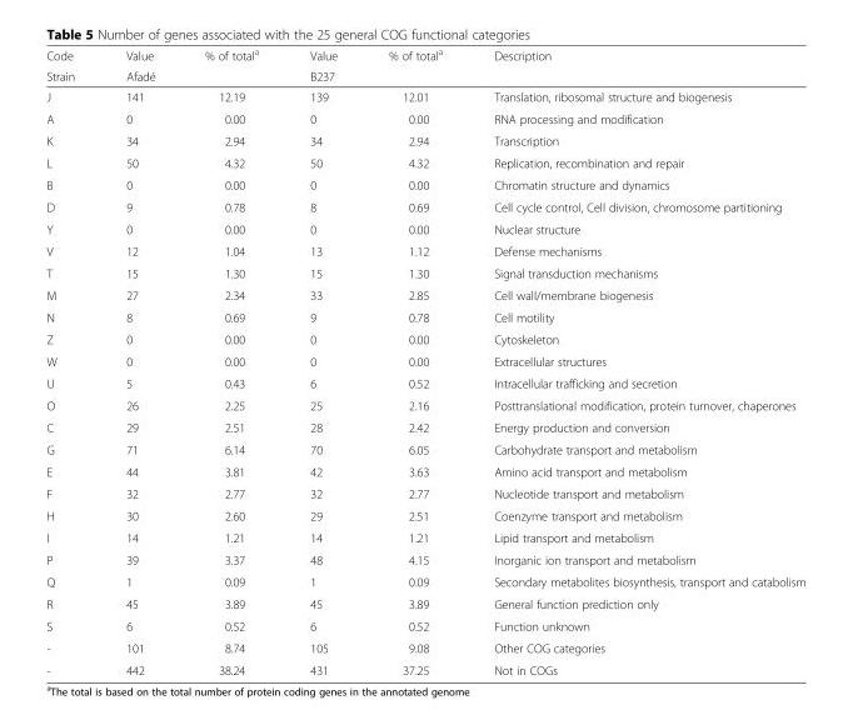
<table><thead><tr><td rowspan="2">Code Strain</td><td>Value</td><td>% of total<sup>a</sup></td><td>Value</td><td>% of total<sup>a</sup></td><td rowspan="2">Description</td></tr><tr><td colspan="2">Afadé</td><td colspan="2">B237</td></tr></thead><tbody><tr><td>J</td><td>141</td><td>12.19</td><td>139</td><td>12.01</td><td>Translation, ribosomal structure and biogenesis</td></tr><tr><td>A</td><td>0</td><td>0.00</td><td>0</td><td>0.00</td><td>RNA processing and modification</td></tr><tr><td>K</td><td>34</td><td>2.94</td><td>34</td><td>2.94</td><td>Transcription</td></tr><tr><td>L</td><td>50</td><td>4.32</td><td>50</td><td>4.32</td><td>Replication, recombination and repair</td></tr><tr><td>B</td><td>0</td><td>0.00</td><td>0</td><td>0.00</td><td>Chromatin structure and dynamics</td></tr><tr><td>D</td><td>9</td><td>0.78</td><td>8</td><td>0.69</td><td>Cell cycle control, Cell division, chromosome partitioning</td></tr><tr><td>Y</td><td>0</td><td>0.00</td><td>0</td><td>0.00</td><td>Nuclear structure</td></tr><tr><td>V</td><td>12</td><td>1.04</td><td>13</td><td>1.12</td><td>Defense mechanisms</td></tr><tr><td>T</td><td>15</td><td>1.30</td><td>15</td><td>1.30</td><td>Signal transduction mechanisms</td></tr><tr><td>M</td><td>27</td><td>2.34</td><td>33</td><td>2.85</td><td>Cell wall/membrane biogenesis</td></tr><tr><td>N</td><td>8</td><td>0.69</td><td>9</td><td>0.78</td><td>Cell motility</td></tr><tr><td>Z</td><td>0</td><td>0.00</td><td>0</td><td>0.00</td><td>Cytoskeleton</td></tr><tr><td>W</td><td>0</td><td>0.00</td><td>0</td><td>0.00</td><td>Extracellular structures</td></tr><tr><td>U</td><td>5</td><td>0.43</td><td>6</td><td>0.52</td><td>Intracellular trafficking and secretion</td></tr><tr><td>O</td><td>26</td><td>2.25</td><td>25</td><td>2.16</td><td>Posttranslational modification, protein turnover, chaperones</td></tr><tr><td>C</td><td>29</td><td>2.51</td><td>28</td><td>2.42</td><td>Energy production and conversion</td></tr><tr><td>G</td><td>71</td><td>6.14</td><td>70</td><td>6.05</td><td>Carbohydrate transport and metabolism</td></tr><tr><td>E</td><td>44</td><td>3.81</td><td>42</td><td>3.63</td><td>Amino acid transport and metabolism</td></tr><tr><td>F</td><td>32</td><td>2.77</td><td>32</td><td>2.77</td><td>Nucleotide transport and metabolism</td></tr><tr><td>H</td><td>30</td><td>2.60</td><td>29</td><td>2.51</td><td>Coenzyme transport and metabolism</td></tr><tr><td>I</td><td>14</td><td>1.21</td><td>14</td><td>1.21</td><td>Lipid transport and metabolism</td></tr><tr><td>P</td><td>39</td><td>3.37</td><td>48</td><td>4.15</td><td>Inorganic ion transport and metabolism</td></tr><tr><td>Q</td><td>1</td><td>0.09</td><td>1</td><td>0.09</td><td>Secondary metabolites biosynthesis, transport and catabolism</td></tr><tr><td>R</td><td>45</td><td>3.89</td><td>45</td><td>3.89</td><td>General function prediction only</td></tr><tr><td>S</td><td>6</td><td>0.52</td><td>6</td><td>0.52</td><td>Function unknown</td></tr><tr><td>-</td><td>101</td><td>8.74</td><td>105</td><td>9.08</td><td>Other COG categories</td></tr><tr><td>-</td><td>442</td><td>38.24</td><td>431</td><td>37.25</td><td>Not in COGs</td></tr></tbody></table>